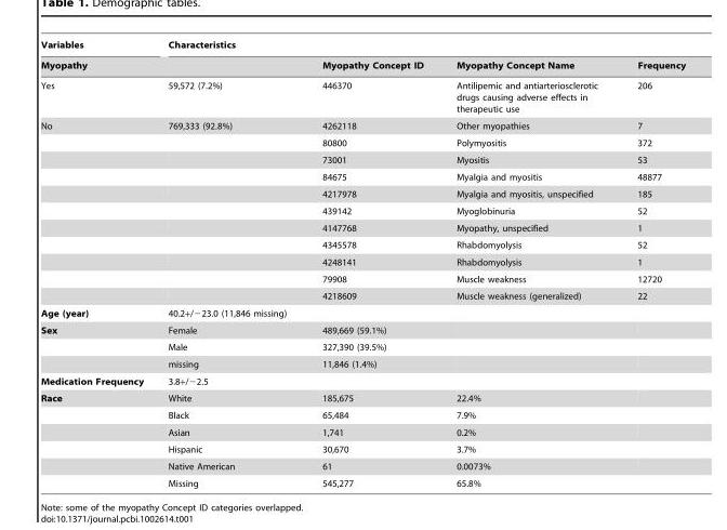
<table><thead><tr><td rowspan="2">Variables Myopathy</td><td colspan="4">Characteristics</td></tr><tr><td></td><td>Myopathy Concept ID</td><td>Myopathy Concept Name</td><td>Frequency</td></tr></thead><tbody><tr><td>Yes</td><td>59,572 (7.2%)</td><td>446370</td><td>Antilipemic and antiarteriosclerotic drugs causing adverse effects in therapeutic use</td><td>206</td></tr><tr><td rowspan="11">No</td><td>769,333 (92.8%)</td><td>4262118</td><td>Other myopathies</td><td>7</td></tr><tr><td></td><td>80800</td><td>Polymyositis</td><td>372</td></tr><tr><td></td><td>73001</td><td>Myositis</td><td>53</td></tr><tr><td></td><td>84675</td><td>Myalgia and myositis</td><td>48877</td></tr><tr><td></td><td>4217978</td><td>Myalgia and myositis, unspecified</td><td>185</td></tr><tr><td></td><td>439142</td><td>Myoglobinuria</td><td>52</td></tr><tr><td></td><td>4147768</td><td>Myopathy, unspecified</td><td>1</td></tr><tr><td></td><td>4345578</td><td>Rhabdomyolysis</td><td>52</td></tr><tr><td></td><td>4248141</td><td>Rhabdomyolysis</td><td>1</td></tr><tr><td></td><td>79908</td><td>Muscle weakness</td><td>12720</td></tr><tr><td></td><td>4218609</td><td>Muscle weakness (generalized)</td><td>22</td></tr><tr><td>Age (year)</td><td>40.2+/−23.0 (11,846 missing)</td><td></td><td></td><td></td></tr><tr><td rowspan="3">Sex</td><td>Female</td><td>489,669 (59.1%)</td><td></td><td></td></tr><tr><td>Male</td><td>327,390 (39.5%)</td><td></td><td></td></tr><tr><td>missing</td><td>11,846 (1.4%)</td><td></td><td></td></tr><tr><td>Medication Frequency</td><td>3.8+/−2.5</td><td></td><td></td><td></td></tr><tr><td rowspan="6">Race</td><td>White</td><td>185,675</td><td>22.4%</td><td></td></tr><tr><td>Black</td><td>65,484</td><td>7.9%</td><td></td></tr><tr><td>Asian</td><td>1,741</td><td>0.2%</td><td></td></tr><tr><td>Hispanic</td><td>30,670</td><td>3.7%</td><td></td></tr><tr><td>Native American</td><td>61</td><td>0.0073%</td><td></td></tr><tr><td>Missing</td><td>545,277</td><td>65.8%</td><td></td></tr></tbody></table>